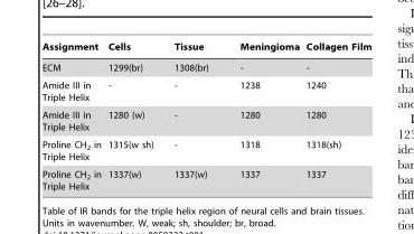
<table><thead><tr><td>Assignment</td><td>Cells</td><td>Tissue</td><td>Meningioma</td><td>Collagen Film</td></tr></thead><tbody><tr><td>ECM</td><td>1299(br)</td><td>1308(br)</td><td>-</td><td>-</td></tr><tr><td>Amide III in Triple Helix</td><td>-</td><td>-</td><td>1238</td><td>1240</td></tr><tr><td>Amide III in Triple Helix</td><td>1280 (w)</td><td>-</td><td>1280</td><td>1280</td></tr><tr><td>Proline CH<sub>2</sub> in Triple Helix</td><td>1315(w sh)</td><td>-</td><td>1318</td><td>1318(sh)</td></tr><tr><td>Proline CH<sub>2</sub> in Triple Helix</td><td>1337(w)</td><td>1337(w)</td><td>1337</td><td>1337</td></tr></tbody></table>